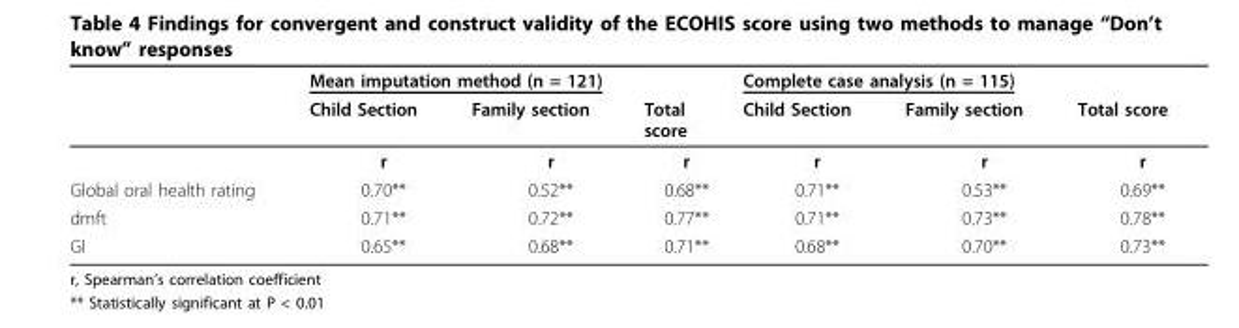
<table><thead><tr><td rowspan="2"></td><td colspan="3">Mean imputation method (n = 121)</td><td colspan="3">Complete case analysis (n = 115)</td></tr><tr><td>Child Section</td><td>Family section</td><td>Total score</td><td>Child Section</td><td>Family section</td><td>Total score</td></tr></thead><tbody><tr><td></td><td>r</td><td>r</td><td>r</td><td>r</td><td>r</td><td>r</td></tr><tr><td>Global oral health rating</td><td>0.70**</td><td>0.52**</td><td>0.68**</td><td>0.71**</td><td>0.53**</td><td>0.69**</td></tr><tr><td>dmft</td><td>0.71**</td><td>0.72**</td><td>0.77**</td><td>0.71**</td><td>0.73**</td><td>0.78**</td></tr><tr><td>GI</td><td>0.65**</td><td>0.68**</td><td>0.71**</td><td>0.68**</td><td>0.70**</td><td>0.73**</td></tr></tbody></table>